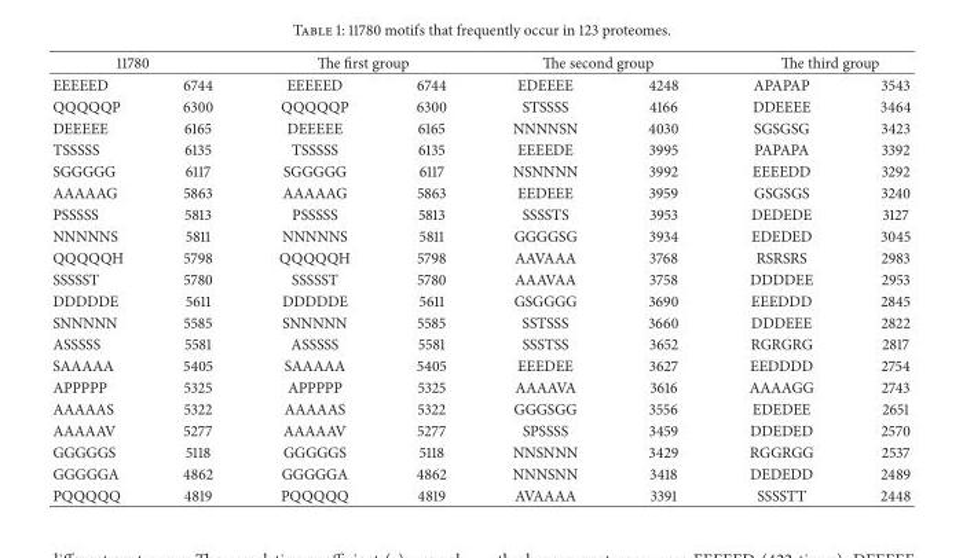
<table><thead><tr><td colspan="2">11780</td><td colspan="2">The first group</td><td colspan="2">The second group</td><td colspan="2">The third group</td></tr><tr><td>EEEEED</td><td>6744</td><td>EEEEED</td><td>6744</td><td>EDEEEE</td><td>4248</td><td>APAPAP</td><td>3543</td></tr></thead><tbody><tr><td>QQQQQP</td><td>6300</td><td>QQQQQP</td><td>6300</td><td>STSSSS</td><td>4166</td><td>DDEEEE</td><td>3464</td></tr><tr><td>DEEEEE</td><td>6165</td><td>DEEEEE</td><td>6165</td><td>NNNNSN</td><td>4030</td><td>SGSGSG</td><td>3423</td></tr><tr><td>TSSSSS</td><td>6135</td><td>TSSSSS</td><td>6135</td><td>EEEEDE</td><td>3995</td><td>PAPAPA</td><td>3392</td></tr><tr><td>SGGGGG</td><td>6117</td><td>SGGGGG</td><td>6117</td><td>NSNNNN</td><td>3992</td><td>EEEEDD</td><td>3292</td></tr><tr><td>AAAAAG</td><td>5863</td><td>AAAAAG</td><td>5863</td><td>EEDEEE</td><td>3959</td><td>GSGSGS</td><td>3240</td></tr><tr><td>PSSSSS</td><td>5813</td><td>PSSSSS</td><td>5813</td><td>SSSSTS</td><td>3953</td><td>DEDEDE</td><td>3127</td></tr><tr><td>NNNNNS</td><td>5811</td><td>NNNNNS</td><td>5811</td><td>GGGGSG</td><td>3934</td><td>EDEDED</td><td>3045</td></tr><tr><td>QQQQQH</td><td>5798</td><td>QQQQQH</td><td>5798</td><td>AAVAAA</td><td>3768</td><td>RSRSRS</td><td>2983</td></tr><tr><td>SSSSST</td><td>5780</td><td>SSSSST</td><td>5780</td><td>AAAVAA</td><td>3758</td><td>DDDDEE</td><td>2953</td></tr><tr><td>DDDDDE</td><td>5611</td><td>DDDDDE</td><td>5611</td><td>GSGGGG</td><td>3690</td><td>EEEDDD</td><td>2845</td></tr><tr><td>SNNNNN</td><td>5585</td><td>SNNNNN</td><td>5585</td><td>SSTSSS</td><td>3660</td><td>DDDEEE</td><td>2822</td></tr><tr><td>ASSSSS</td><td>5581</td><td>ASSSSS</td><td>5581</td><td>SSSTSS</td><td>3652</td><td>RGRGRG</td><td>2817</td></tr><tr><td>SAAAAA</td><td>5405</td><td>SAAAAA</td><td>5405</td><td>EEEDEE</td><td>3627</td><td>EEDDDD</td><td>2754</td></tr><tr><td>APPPPP</td><td>5325</td><td>APPPPP</td><td>5325</td><td>AAAAVA</td><td>3616</td><td>AAAAGG</td><td>2743</td></tr><tr><td>AAAAAS</td><td>5322</td><td>AAAAAS</td><td>5322</td><td>GGGSGG</td><td>3556</td><td>EDEDEE</td><td>2651</td></tr><tr><td>AAAAAV</td><td>5277</td><td>AAAAAV</td><td>5277</td><td>SPSSSS</td><td>3459</td><td>DDEDED</td><td>2570</td></tr><tr><td>GGGGGS</td><td>5118</td><td>GGGGGS</td><td>5118</td><td>NNSNNN</td><td>3429</td><td>RGGRGG</td><td>2537</td></tr><tr><td>GGGGGA</td><td>4862</td><td>GGGGGA</td><td>4862</td><td>NNNSNN</td><td>3418</td><td>DEDEDD</td><td>2489</td></tr><tr><td>PQQQQQ</td><td>4819</td><td>PQQQQQ</td><td>4819</td><td>AVAAAA</td><td>3391</td><td>SSSSTT</td><td>2448</td></tr></tbody></table>